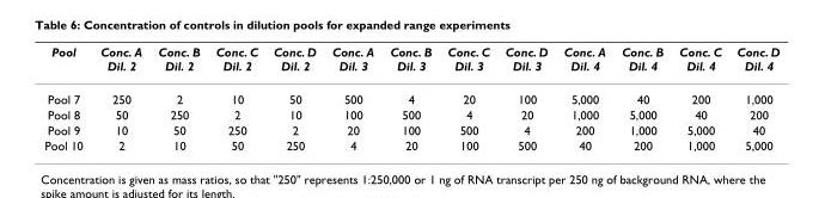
<table><thead><tr><td>Pool</td><td>Conc. A Dil. 2</td><td>Conc. B Dil. 2</td><td>Conc. C Dil. 2</td><td>Conc. D Dil. 2</td><td>Conc. A Dil. 3</td><td>Conc. B Dil. 3</td><td>Conc. C Dil. 3</td><td>Conc. D Dil. 3</td><td>Conc. A Dil. 4</td><td>Conc. B Dil. 4</td><td>Conc. C Dil. 4</td><td>Conc. D Dil. 4</td></tr></thead><tbody><tr><td>Pool 7</td><td>250</td><td>2</td><td>10</td><td>50</td><td>500</td><td>4</td><td>20</td><td>100</td><td>5,000</td><td>40</td><td>200</td><td>1,000</td></tr><tr><td>Pool 8</td><td>50</td><td>250</td><td>2</td><td>10</td><td>100</td><td>500</td><td>4</td><td>20</td><td>1,000</td><td>5,000</td><td>40</td><td>200</td></tr><tr><td>Pool 9</td><td>10</td><td>50</td><td>250</td><td>2</td><td>20</td><td>100</td><td>500</td><td>4</td><td>200</td><td>1,000</td><td>5,000</td><td>40</td></tr><tr><td>Pool 10</td><td>2</td><td>10</td><td>50</td><td>250</td><td>4</td><td>20</td><td>100</td><td>500</td><td>40</td><td>200</td><td>1,000</td><td>5,000</td></tr></tbody></table>